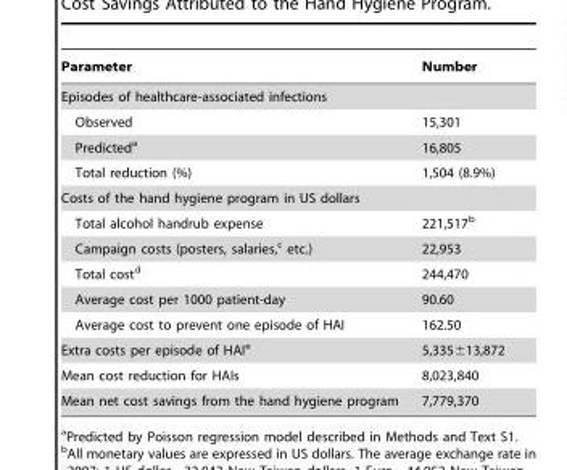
<table><thead><tr><td>Parameter</td><td>Number</td></tr></thead><tbody><tr><td colspan="2">Episodes of healthcare-associated infections</td></tr><tr><td>Observed</td><td>15,301</td></tr><tr><td>Predicted<sup>a</sup></td><td>16,805</td></tr><tr><td>Total reduction (%)</td><td>1,504 (8.9%)</td></tr><tr><td colspan="2">Costs of the hand hygiene program in US dollars</td></tr><tr><td>Total alcohol handrub expense</td><td>221,517<sup>b</sup></td></tr><tr><td>Campaign costs (posters, salaries,<sup>c</sup> etc.)</td><td>22,953</td></tr><tr><td>Total cost<sup>d</sup></td><td>244,470</td></tr><tr><td>Average cost per 1000 patient-day</td><td>90.60</td></tr><tr><td>Average cost to prevent one episode of HAI</td><td>162.50</td></tr><tr><td>Extra costs per episode of HAI<sup>e</sup></td><td>5,335±13,872</td></tr><tr><td>Mean cost reduction for HAIs</td><td>8,023,840</td></tr><tr><td>Mean net cost savings from the hand hygiene program</td><td>7,779,370</td></tr></tbody></table>